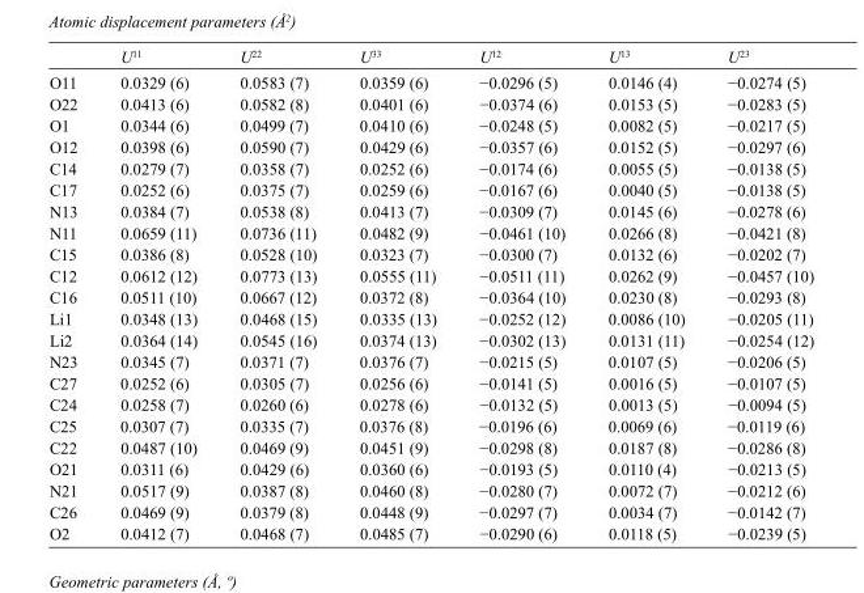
<table><thead><tr><td></td><td>U<sup>11</sup></td><td>U<sup>22</sup></td><td>U<sup>33</sup></td><td>U<sup>12</sup></td><td>U<sup>13</sup></td><td>U<sup>23</sup></td></tr></thead><tbody><tr><td>O11</td><td>0.0329 (6)</td><td>0.0583 (7)</td><td>0.0359 (6)</td><td>−0.0296 (5)</td><td>0.0146 (4)</td><td>−0.0274 (5)</td></tr><tr><td>O22</td><td>0.0413 (6)</td><td>0.0582 (8)</td><td>0.0401 (6)</td><td>−0.0374 (6)</td><td>0.0153 (5)</td><td>−0.0283 (5)</td></tr><tr><td>O1</td><td>0.0344 (6)</td><td>0.0499 (7)</td><td>0.0410 (6)</td><td>−0.0248 (5)</td><td>0.0082 (5)</td><td>−0.0217 (5)</td></tr><tr><td>O12</td><td>0.0398 (6)</td><td>0.0590 (7)</td><td>0.0429 (6)</td><td>−0.0357 (6)</td><td>0.0152 (5)</td><td>−0.0297 (6)</td></tr><tr><td>C14</td><td>0.0279 (7)</td><td>0.0358 (7)</td><td>0.0252 (6)</td><td>−0.0174 (6)</td><td>0.0055 (5)</td><td>−0.0138 (5)</td></tr><tr><td>C17</td><td>0.0252 (6)</td><td>0.0375 (7)</td><td>0.0259 (6)</td><td>−0.0167 (6)</td><td>0.0040 (5)</td><td>−0.0138 (5)</td></tr><tr><td>N13</td><td>0.0384 (7)</td><td>0.0538 (8)</td><td>0.0413 (7)</td><td>−0.0309 (7)</td><td>0.0145 (6)</td><td>−0.0278 (6)</td></tr><tr><td>N11</td><td>0.0659 (11)</td><td>0.0736 (11)</td><td>0.0482 (9)</td><td>−0.0461 (10)</td><td>0.0266 (8)</td><td>−0.0421 (8)</td></tr><tr><td>C15</td><td>0.0386 (8)</td><td>0.0528 (10)</td><td>0.0323 (7)</td><td>−0.0300 (7)</td><td>0.0132 (6)</td><td>−0.0202 (7)</td></tr><tr><td>C12</td><td>0.0612 (12)</td><td>0.0773 (13)</td><td>0.0555 (11)</td><td>−0.0511 (11)</td><td>0.0262 (9)</td><td>−0.0457 (10)</td></tr><tr><td>C16</td><td>0.0511 (10)</td><td>0.0667 (12)</td><td>0.0372 (8)</td><td>−0.0364 (10)</td><td>0.0230 (8)</td><td>−0.0293 (8)</td></tr><tr><td>Li1</td><td>0.0348 (13)</td><td>0.0468 (15)</td><td>0.0335 (13)</td><td>−0.0252 (12)</td><td>0.0086 (10)</td><td>−0.0205 (11)</td></tr><tr><td>Li2</td><td>0.0364 (14)</td><td>0.0545 (16)</td><td>0.0374 (13)</td><td>−0.0302 (13)</td><td>0.0131 (11)</td><td>−0.0254 (12)</td></tr><tr><td>N23</td><td>0.0345 (7)</td><td>0.0371 (7)</td><td>0.0376 (7)</td><td>−0.0215 (5)</td><td>0.0107 (5)</td><td>−0.0206 (5)</td></tr><tr><td>C27</td><td>0.0252 (6)</td><td>0.0305 (7)</td><td>0.0256 (6)</td><td>−0.0141 (5)</td><td>0.0016 (5)</td><td>−0.0107 (5)</td></tr><tr><td>C24</td><td>0.0258 (7)</td><td>0.0260 (6)</td><td>0.0278 (6)</td><td>−0.0132 (5)</td><td>0.0013 (5)</td><td>−0.0094 (5)</td></tr><tr><td>C25</td><td>0.0307 (7)</td><td>0.0335 (7)</td><td>0.0376 (8)</td><td>−0.0196 (6)</td><td>0.0069 (6)</td><td>−0.0119 (6)</td></tr><tr><td>C22</td><td>0.0487 (10)</td><td>0.0469 (9)</td><td>0.0451 (9)</td><td>−0.0298 (8)</td><td>0.0187 (8)</td><td>−0.0286 (8)</td></tr><tr><td>O21</td><td>0.0311 (6)</td><td>0.0429 (6)</td><td>0.0360 (6)</td><td>−0.0193 (5)</td><td>0.0110 (4)</td><td>−0.0213 (5)</td></tr><tr><td>N21</td><td>0.0517 (9)</td><td>0.0387 (8)</td><td>0.0460 (8)</td><td>−0.0280 (7)</td><td>0.0072 (7)</td><td>−0.0212 (6)</td></tr><tr><td>C26</td><td>0.0469 (9)</td><td>0.0379 (8)</td><td>0.0448 (9)</td><td>−0.0297 (7)</td><td>0.0034 (7)</td><td>−0.0142 (7)</td></tr><tr><td>O2</td><td>0.0412 (7)</td><td>0.0468 (7)</td><td>0.0485 (7)</td><td>−0.0290 (6)</td><td>0.0118 (5)</td><td>−0.0239 (5)</td></tr></tbody></table>